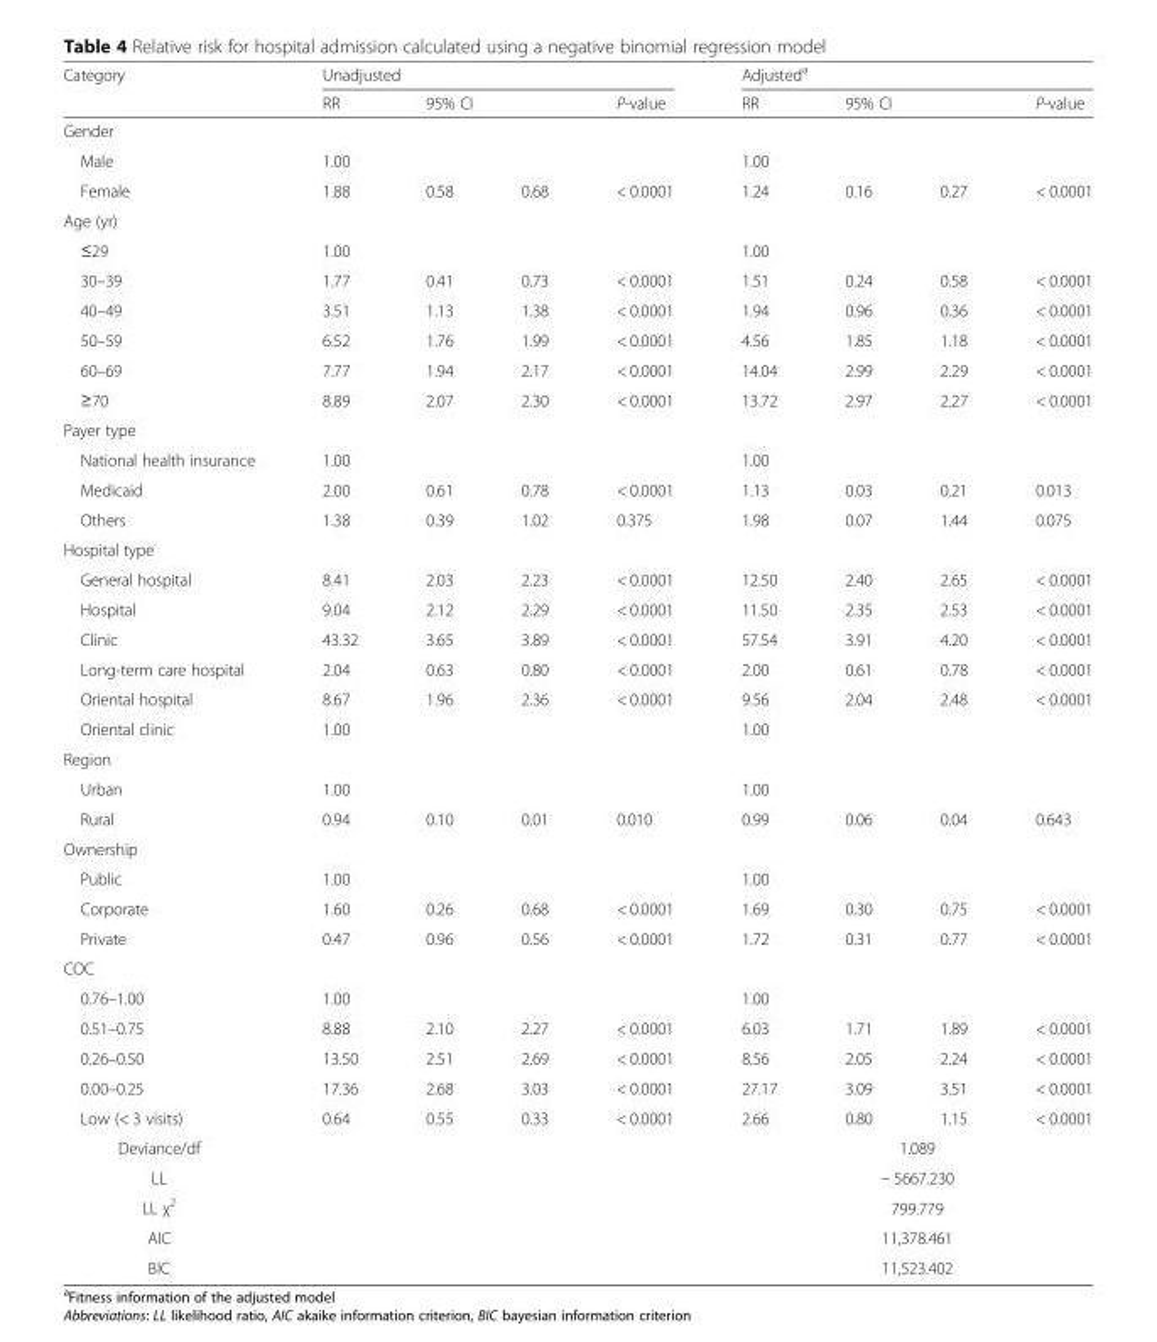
<table><thead><tr><td rowspan="2">Category</td><td colspan="4">Unadjusted</td><td colspan="4">Adjusted<sup>a</sup></td></tr><tr><td>RR</td><td colspan="2">95% CI</td><td>P-value</td><td>RR</td><td colspan="2">95% CI</td><td>P-value</td></tr><tr><td colspan="9">Gender</td></tr><tr><td>Male</td><td>1.00</td><td></td><td></td><td></td><td>1.00</td><td></td><td></td><td></td></tr></thead><tbody><tr><td>Female</td><td>1.88</td><td>0.58</td><td>0.68</td><td>&lt; 0.0001</td><td>1.24</td><td>0.16</td><td>0.27</td><td>&lt; 0.0001</td></tr><tr><td colspan="9">Age (yr)</td></tr><tr><td>≤29</td><td>1.00</td><td></td><td></td><td></td><td>1.00</td><td></td><td></td><td></td></tr><tr><td>30–39</td><td>1.77</td><td>0.41</td><td>0.73</td><td>&lt; 0.0001</td><td>1.51</td><td>0.24</td><td>0.58</td><td>&lt; 0.0001</td></tr><tr><td>40–49</td><td>3.51</td><td>1.13</td><td>1.38</td><td>&lt; 0.0001</td><td>1.94</td><td>0.96</td><td>0.36</td><td>&lt; 0.0001</td></tr><tr><td>50–59</td><td>6.52</td><td>1.76</td><td>1.99</td><td>&lt; 0.0001</td><td>4.56</td><td>1.85</td><td>1.18</td><td>&lt; 0.0001</td></tr><tr><td>60–69</td><td>7.77</td><td>1.94</td><td>2.17</td><td>&lt; 0.0001</td><td>14.04</td><td>2.99</td><td>2.29</td><td>&lt; 0.0001</td></tr><tr><td>≥70</td><td>8.89</td><td>2.07</td><td>2.30</td><td>&lt; 0.0001</td><td>13.72</td><td>2.97</td><td>2.27</td><td>&lt; 0.0001</td></tr><tr><td colspan="9">Payer type</td></tr><tr><td>National health insurance</td><td>1.00</td><td></td><td></td><td></td><td>1.00</td><td></td><td></td><td></td></tr><tr><td>Medicaid</td><td>2.00</td><td>0.61</td><td>0.78</td><td>&lt; 0.0001</td><td>1.13</td><td>0.03</td><td>0.21</td><td>0.013</td></tr><tr><td>Others</td><td>1.38</td><td>0.39</td><td>1.02</td><td>0.375</td><td>1.98</td><td>0.07</td><td>1.44</td><td>0.075</td></tr><tr><td colspan="9">Hospital type</td></tr><tr><td>General hospital</td><td>8.41</td><td>2.03</td><td>2.23</td><td>&lt; 0.0001</td><td>12.50</td><td>2.40</td><td>2.65</td><td>&lt; 0.0001</td></tr><tr><td>Hospital</td><td>9.04</td><td>2.12</td><td>2.29</td><td>&lt; 0.0001</td><td>11.50</td><td>2.35</td><td>2.53</td><td>&lt; 0.0001</td></tr><tr><td>Clinic</td><td>43.32</td><td>3.65</td><td>3.89</td><td>&lt; 0.0001</td><td>57.54</td><td>3.91</td><td>4.20</td><td>&lt; 0.0001</td></tr><tr><td>Long-term care hospital</td><td>2.04</td><td>0.63</td><td>0.80</td><td>&lt; 0.0001</td><td>2.00</td><td>0.61</td><td>0.78</td><td>&lt; 0.0001</td></tr><tr><td>Oriental hospital</td><td>8.67</td><td>1.96</td><td>2.36</td><td>&lt; 0.0001</td><td>9.56</td><td>2.04</td><td>2.48</td><td>&lt; 0.0001</td></tr><tr><td>Oriental clinic</td><td>1.00</td><td></td><td></td><td></td><td>1.00</td><td></td><td></td><td></td></tr><tr><td colspan="9">Region</td></tr><tr><td>Urban</td><td>1.00</td><td></td><td></td><td></td><td>1.00</td><td></td><td></td><td></td></tr><tr><td>Rural</td><td>0.94</td><td>0.10</td><td>0.01</td><td>0.010</td><td>0.99</td><td>0.06</td><td>0.04</td><td>0.643</td></tr><tr><td colspan="9">Ownership</td></tr><tr><td>Public</td><td>1.00</td><td></td><td></td><td></td><td>1.00</td><td></td><td></td><td></td></tr><tr><td>Corporate</td><td>1.60</td><td>0.26</td><td>0.68</td><td>&lt; 0.0001</td><td>1.69</td><td>0.30</td><td>0.75</td><td>&lt; 0.0001</td></tr><tr><td>Private</td><td>0.47</td><td>0.96</td><td>0.56</td><td>&lt; 0.0001</td><td>1.72</td><td>0.31</td><td>0.77</td><td>&lt; 0.0001</td></tr><tr><td colspan="9">COC</td></tr><tr><td>0.76–1.00</td><td>1.00</td><td></td><td></td><td></td><td>1.00</td><td></td><td></td><td></td></tr><tr><td>0.51–0.75</td><td>8.88</td><td>2.10</td><td>2.27</td><td>&lt; 0.0001</td><td>6.03</td><td>1.71</td><td>1.89</td><td>&lt; 0.0001</td></tr><tr><td>0.26–0.50</td><td>13.50</td><td>2.51</td><td>2.69</td><td>&lt; 0.0001</td><td>8.56</td><td>2.05</td><td>2.24</td><td>&lt; 0.0001</td></tr><tr><td>0.00–0.25</td><td>17.36</td><td>2.68</td><td>3.03</td><td>&lt; 0.0001</td><td>27.17</td><td>3.09</td><td>3.51</td><td>&lt; 0.0001</td></tr><tr><td>Low (&lt; 3 visits)</td><td>0.64</td><td>0.55</td><td>0.33</td><td>&lt; 0.0001</td><td>2.66</td><td>0.80</td><td>1.15</td><td>&lt; 0.0001</td></tr><tr><td>Deviance/df</td><td></td><td></td><td></td><td></td><td colspan="4">1.089</td></tr><tr><td>LL</td><td></td><td></td><td></td><td></td><td colspan="4">− 5667.230</td></tr><tr><td>LL χ<sup>2</sup></td><td></td><td></td><td></td><td></td><td colspan="4">799.779</td></tr><tr><td>AIC</td><td></td><td></td><td></td><td></td><td colspan="4">11,378.461</td></tr><tr><td>BIC</td><td></td><td></td><td></td><td></td><td colspan="4">11,523.402</td></tr></tbody></table>